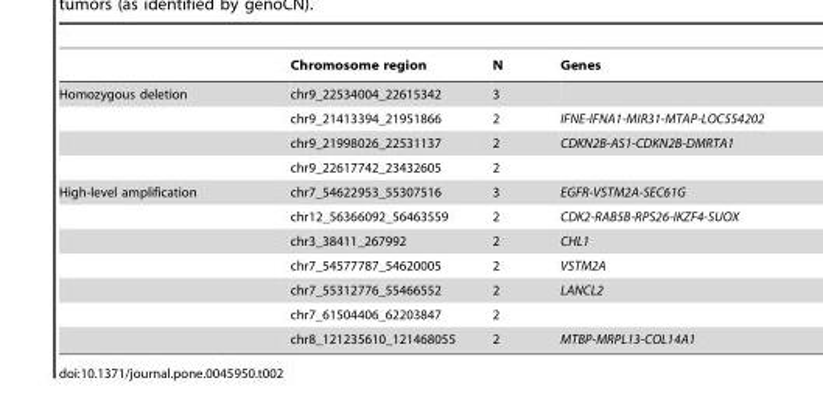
<table><thead><tr><td></td><td>Chromosome region</td><td>N</td><td>Genes</td></tr></thead><tbody><tr><td rowspan="4">Homozygous deletion</td><td>chr9_22534004_22615342</td><td>3</td><td></td></tr><tr><td>chr9_21413394_21951866</td><td>2</td><td>IFNE-IFNA1-MIR31-MTAP-LOC554202</td></tr><tr><td>chr9_21998026_22531137</td><td>2</td><td>CDKN2B-AS1-CDKN2B-DMRTA1</td></tr><tr><td>chr9_22617742_23432605</td><td>2</td><td></td></tr><tr><td rowspan="7">High-level amplification</td><td>chr7_54622953_55307516</td><td>3</td><td>EGFR-VSTM2A-SEC61G</td></tr><tr><td>chr12_56366092_56463559</td><td>2</td><td>CDK2-RAB5B-RPS26-IKZF4-SUOX</td></tr><tr><td>chr3_38411_267992</td><td>2</td><td>CHL1</td></tr><tr><td>chr7_54577787_54620005</td><td>2</td><td>VSTM2A</td></tr><tr><td>chr7_55312776_55466552</td><td>2</td><td>LANCL2</td></tr><tr><td>chr7_61504406_62203847</td><td>2</td><td></td></tr><tr><td>chr8_121235610_121468055</td><td>2</td><td>MTBP-MRPL13-COL14A1</td></tr></tbody></table>